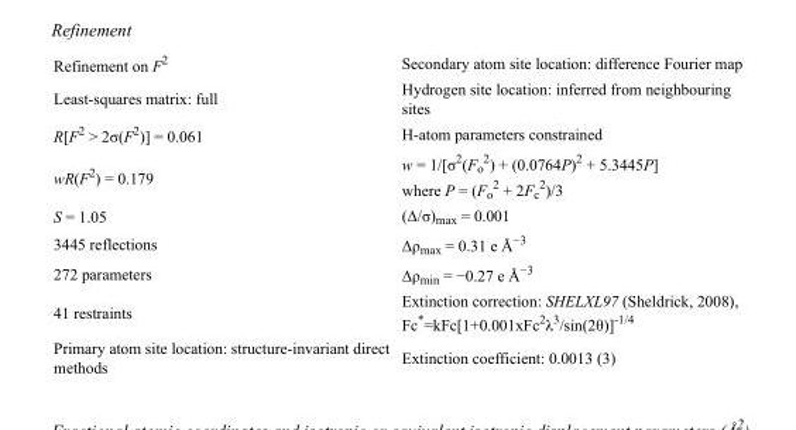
<table><tbody><tr><td>Refinement on F<sup>2</sup></td><td>Secondary atom site location: difference Fourier map</td></tr><tr><td>Least-squares matrix: full</td><td>Hydrogen site location: inferred from neighbouring sites</td></tr><tr><td>R[F<sup>2</sup> &gt; 2σ(F<sup>2</sup>)] = 0.061</td><td>H-atom parameters constrained</td></tr><tr><td>wR(F<sup>2</sup>) = 0.179</td><td>w = 1/[σ<sup>2</sup>(F<sub>o</sub> <sup>2</sup>) + (0.0764P)<sup>2</sup> + 5.3445P] where P = (F<sub>o</sub> <sup>2</sup> + 2F<sub>c</sub> <sup>2</sup>)/3</td></tr><tr><td>S = 1.05</td><td>(Δ/σ)<sub>max</sub> = 0.001</td></tr><tr><td>3445 reflections</td><td>Δρ<sub>max</sub> = 0.31 e Å<sup>−3</sup></td></tr><tr><td>272 parameters</td><td>Δρ<sub>min</sub> = −0.27 e Å<sup>−3</sup></td></tr><tr><td>41 restraints</td><td>Extinction correction: SHELXL97 (Sheldrick, 2008), Fc*=kFc[1+0.001xFc<sup>2</sup>λ<sup>3</sup>/sin(2θ)]<sup>-1/4</sup></td></tr><tr><td>Primary atom site location: structure-invariant direct methods</td><td>Extinction coefficient: 0.0013 (3)</td></tr></tbody></table>